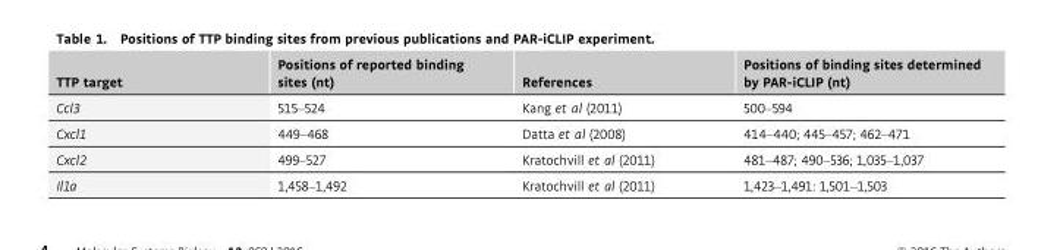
<table><thead><tr><td>TTP target</td><td>Positions of reported binding sites (nt)</td><td>References</td><td>Positions of binding sites determined by PAR-iCLIP (nt)</td></tr></thead><tbody><tr><td>Ccl3</td><td>515–524</td><td>Kang et al (2011)</td><td>500–594</td></tr><tr><td>Cxcl1</td><td>449–468</td><td>Datta et al (2008)</td><td>414–440; 445–457; 462–471</td></tr><tr><td>Cxcl2</td><td>499–527</td><td>Kratochvill et al (2011)</td><td>481–487; 490–536; 1,035–1,037</td></tr><tr><td>Il1a</td><td>1,458–1,492</td><td>Kratochvill et al (2011)</td><td>1,423–1,491: 1,501–1,503</td></tr></tbody></table>